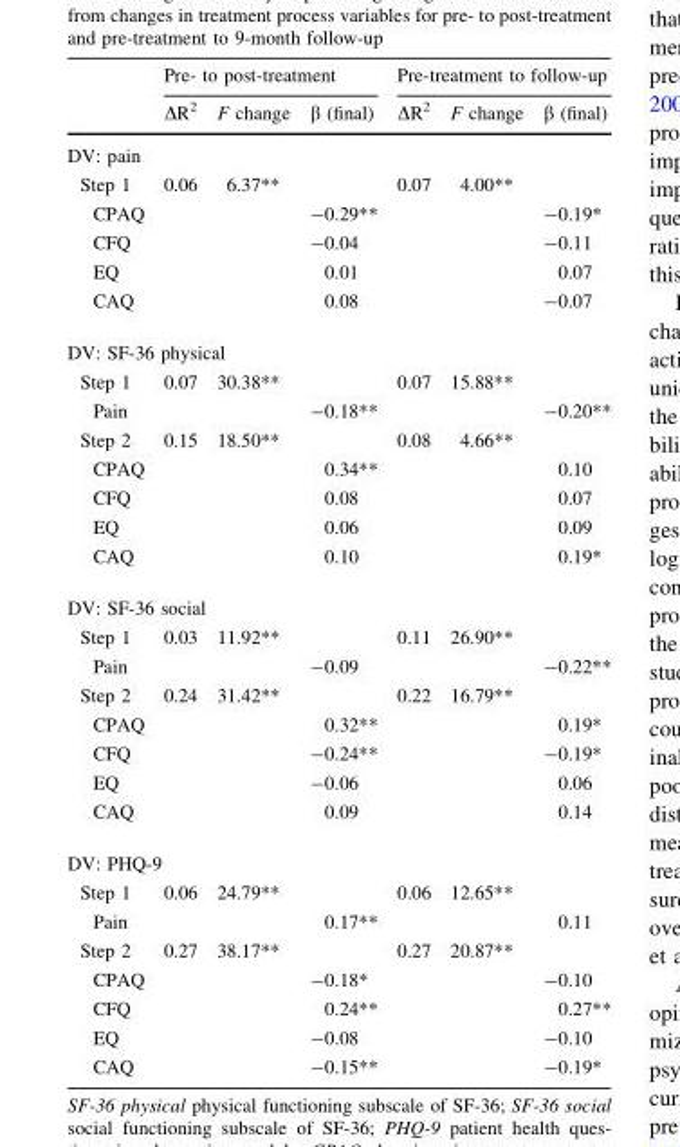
<table><thead><tr><td rowspan="2"></td><td colspan="3">Pre- to post-treatment</td><td colspan="3">Pre-treatment to follow-up</td></tr><tr><td>∆R<sup>2</sup></td><td>F change</td><td>β (final)</td><td>∆R<sup>2</sup></td><td>F change</td><td>β (final)</td></tr></thead><tbody><tr><td colspan="7">DV: pain</td></tr><tr><td>Step 1</td><td>0.06</td><td>6.37**</td><td></td><td>0.07</td><td>4.00**</td><td></td></tr><tr><td>CPAQ</td><td></td><td></td><td>-0.29**</td><td></td><td></td><td>-0.19*</td></tr><tr><td>CFQ</td><td></td><td></td><td>-0.04</td><td></td><td></td><td>-0.11</td></tr><tr><td>EQ</td><td></td><td></td><td>0.01</td><td></td><td></td><td>0.07</td></tr><tr><td>CAQ</td><td></td><td></td><td>0.08</td><td></td><td></td><td>-0.07</td></tr><tr><td colspan="7">DV: SF-36 physical</td></tr><tr><td>Step 1</td><td>0.07</td><td>30.38**</td><td></td><td>0.07</td><td>15.88**</td><td></td></tr><tr><td>Pain</td><td></td><td></td><td>-0.18**</td><td></td><td></td><td>-0.20**</td></tr><tr><td>Step 2</td><td>0.15</td><td>18.50**</td><td></td><td>0.08</td><td>4.66**</td><td></td></tr><tr><td>CPAQ</td><td></td><td></td><td>0.34**</td><td></td><td></td><td>0.10</td></tr><tr><td>CFQ</td><td></td><td></td><td>0.08</td><td></td><td></td><td>0.07</td></tr><tr><td>EQ</td><td></td><td></td><td>0.06</td><td></td><td></td><td>0.09</td></tr><tr><td>CAQ</td><td></td><td></td><td>0.10</td><td></td><td></td><td>0.19*</td></tr><tr><td colspan="7">DV: SF-36 social</td></tr><tr><td>Step 1</td><td>0.03</td><td>11.92**</td><td></td><td>0.11</td><td>26.90**</td><td></td></tr><tr><td>Pain</td><td></td><td></td><td>-0.09</td><td></td><td></td><td>-0.22**</td></tr><tr><td>Step 2</td><td>0.24</td><td>31.42**</td><td></td><td>0.22</td><td>16.79**</td><td></td></tr><tr><td>CPAQ</td><td></td><td></td><td>0.32**</td><td></td><td></td><td>0.19*</td></tr><tr><td>CFQ</td><td></td><td></td><td>-0.24**</td><td></td><td></td><td>-0.19*</td></tr><tr><td>EQ</td><td></td><td></td><td>-0.06</td><td></td><td></td><td>0.06</td></tr><tr><td>CAQ</td><td></td><td></td><td>0.09</td><td></td><td></td><td>0.14</td></tr><tr><td colspan="7">DV: PHQ-9</td></tr><tr><td>Step 1</td><td>0.06</td><td>24.79**</td><td></td><td>0.06</td><td>12.65**</td><td></td></tr><tr><td>Pain</td><td></td><td></td><td>0.17**</td><td></td><td></td><td>0.11</td></tr><tr><td>Step 2</td><td>0.27</td><td>38.17**</td><td></td><td>0.27</td><td>20.87**</td><td></td></tr><tr><td>CPAQ</td><td></td><td></td><td>-0.18*</td><td></td><td></td><td>-0.10</td></tr><tr><td>CFQ</td><td></td><td></td><td>0.24**</td><td></td><td></td><td>0.27**</td></tr><tr><td>EQ</td><td></td><td></td><td>-0.08</td><td></td><td></td><td>-0.10</td></tr><tr><td>CAQ</td><td></td><td></td><td>-0.15**</td><td></td><td></td><td>-0.19*</td></tr></tbody></table>